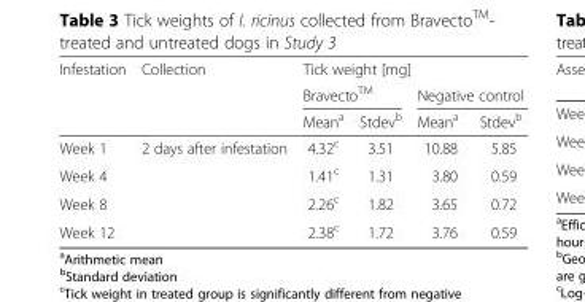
<table><thead><tr><td rowspan="3">Infestation</td><td rowspan="3">Collection</td><td colspan="4">Tick weight [mg]</td></tr><tr><td colspan="2">Bravecto<sup>TM</sup></td><td colspan="2">Negative control</td></tr><tr><td>Mean<sup>a</sup></td><td>Stdev<sup>b</sup></td><td>Mean<sup>a</sup></td><td>Stdev<sup>b</sup></td></tr></thead><tbody><tr><td>Week 1</td><td rowspan="4">2 days after infestation</td><td>4.32<sup>c</sup></td><td>3.51</td><td>10.88</td><td>5.85</td></tr><tr><td>Week 4</td><td>1.41<sup>c</sup></td><td>1.31</td><td>3.80</td><td>0.59</td></tr><tr><td>Week 8</td><td>2.26<sup>c</sup></td><td>1.82</td><td>3.65</td><td>0.72</td></tr><tr><td>Week 12</td><td>2.38<sup>c</sup></td><td>1.72</td><td>3.76</td><td>0.59</td></tr></tbody></table>